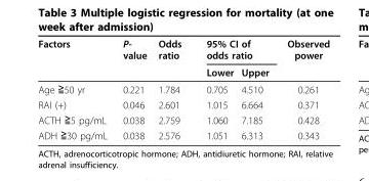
<table><thead><tr><td rowspan="2">Factors</td><td rowspan="2">P- value</td><td rowspan="2">Odds ratio</td><td colspan="2">95% CI of odds ratio</td><td rowspan="2">Observed power</td></tr><tr><td>Lower</td><td>Upper</td></tr></thead><tbody><tr><td>Age ≧50 yr</td><td>0.221</td><td>1.784</td><td>0.705</td><td>4.510</td><td>0.261</td></tr><tr><td>RAI (+)</td><td>0.046</td><td>2.601</td><td>1.015</td><td>6.664</td><td>0.371</td></tr><tr><td>ACTH ≧5 pg/mL</td><td>0.038</td><td>2.759</td><td>1.060</td><td>7.185</td><td>0.428</td></tr><tr><td>ADH ≧30 pg/mL</td><td>0.038</td><td>2.576</td><td>1.051</td><td>6.313</td><td>0.343</td></tr></tbody></table>